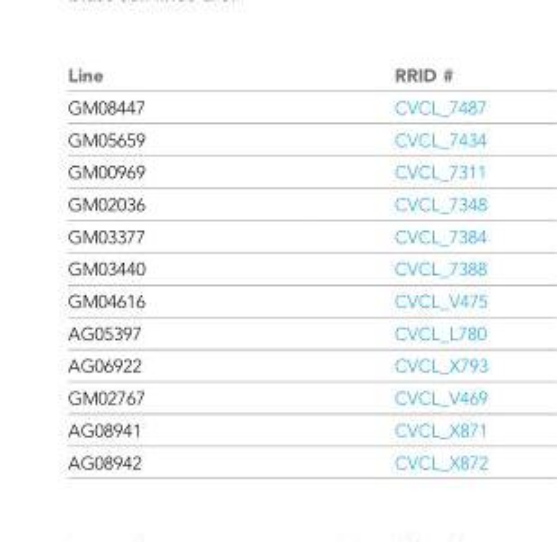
<table><thead><tr><td>Line</td><td>RRID #</td></tr></thead><tbody><tr><td>GM08447</td><td>CVCL_7487</td></tr><tr><td>GM05659</td><td>CVCL_7434</td></tr><tr><td>GM00969</td><td>CVCL_7311</td></tr><tr><td>GM02036</td><td>CVCL_7348</td></tr><tr><td>GM03377</td><td>CVCL_7384</td></tr><tr><td>GM03440</td><td>CVCL_7388</td></tr><tr><td>GM04616</td><td>CVCL_V475</td></tr><tr><td>AG05397</td><td>CVCL_L780</td></tr><tr><td>AG06922</td><td>CVCL_X793</td></tr><tr><td>GM02767</td><td>CVCL_V469</td></tr><tr><td>AG08941</td><td>CVCL_X871</td></tr><tr><td>AG08942</td><td>CVCL_X872</td></tr></tbody></table>